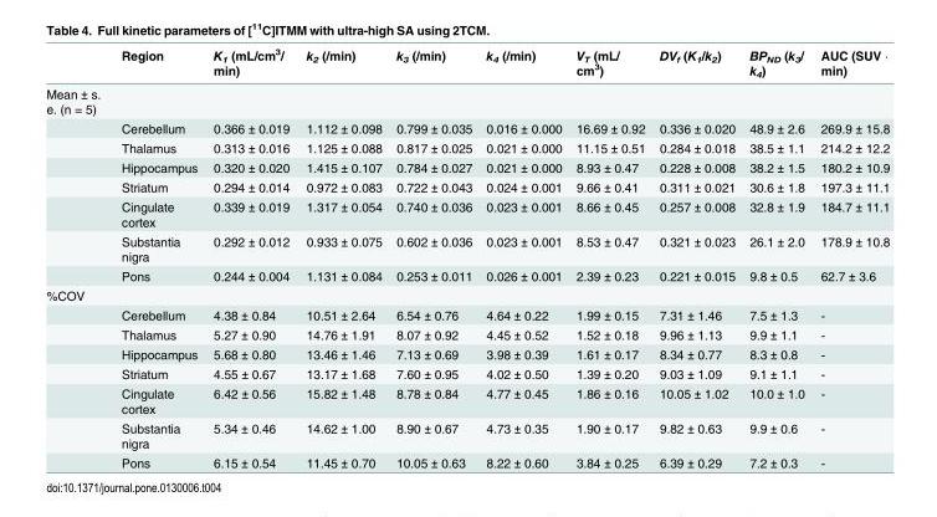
<table><thead><tr><td></td><td>Region</td><td>K<sub>1</sub> (mL/cm<sup>3</sup>/ min)</td><td>k<sub>2</sub> (/min)</td><td>k<sub>3</sub> (/min)</td><td>k<sub>4</sub> (/min)</td><td>V<sub>T</sub> (mL/ cm<sup>3</sup>)</td><td>DV<sub>f</sub> (K<sub>1</sub>/k<sub>2</sub>)</td><td>BP<sub>ND</sub> (k<sub>3</sub>/ k<sub>4</sub>)</td><td>AUC (SUV · min)</td></tr></thead><tbody><tr><td colspan="10">Mean ± s. e. (n = 5)</td></tr><tr><td></td><td>Cerebellum</td><td>0.366 ± 0.019</td><td>1.112 ± 0.098</td><td>0.799 ± 0.035</td><td>0.016 ± 0.000</td><td>16.69 ± 0.92</td><td>0.336 ± 0.020</td><td>48.9 ± 2.6</td><td>269.9 ± 15.8</td></tr><tr><td></td><td>Thalamus</td><td>0.313 ± 0.016</td><td>1.125 ± 0.088</td><td>0.817 ± 0.025</td><td>0.021 ± 0.000</td><td>11.15 ± 0.51</td><td>0.284 ± 0.018</td><td>38.5 ± 1.1</td><td>214.2 ± 12.2</td></tr><tr><td></td><td>Hippocampus</td><td>0.320 ± 0.020</td><td>1.415 ± 0.107</td><td>0.784 ± 0.027</td><td>0.021 ± 0.000</td><td>8.93 ± 0.47</td><td>0.228 ± 0.008</td><td>38.2 ± 1.5</td><td>180.2 ± 10.9</td></tr><tr><td></td><td>Striatum</td><td>0.294 ± 0.014</td><td>0.972 ± 0.083</td><td>0.722 ± 0.043</td><td>0.024 ± 0.001</td><td>9.66 ± 0.41</td><td>0.311 ± 0.021</td><td>30.6 ± 1.8</td><td>197.3 ± 11.1</td></tr><tr><td></td><td>Cingulate cortex</td><td>0.339 ± 0.019</td><td>1.317 ± 0.054</td><td>0.740 ± 0.036</td><td>0.023 ± 0.001</td><td>8.66 ± 0.45</td><td>0.257 ± 0.008</td><td>32.8 ± 1.9</td><td>184.7 ± 11.1</td></tr><tr><td></td><td>Substantia nigra</td><td>0.292 ± 0.012</td><td>0.933 ± 0.075</td><td>0.602 ± 0.036</td><td>0.023 ± 0.001</td><td>8.53 ± 0.47</td><td>0.321 ± 0.023</td><td>26.1 ± 2.0</td><td>178.9 ± 10.8</td></tr><tr><td></td><td>Pons</td><td>0.244 ± 0.004</td><td>1.131 ± 0.084</td><td>0.253 ± 0.011</td><td>0.026 ± 0.001</td><td>2.39 ± 0.23</td><td>0.221 ± 0.015</td><td>9.8 ± 0.5</td><td>62.7 ± 3.6</td></tr><tr><td colspan="10">%COV</td></tr><tr><td></td><td>Cerebellum</td><td>4.38 ± 0.84</td><td>10.51 ± 2.64</td><td>6.54 ± 0.76</td><td>4.64 ± 0.22</td><td>1.99 ± 0.15</td><td>7.31 ± 1.46</td><td>7.5 ± 1.3</td><td>-</td></tr><tr><td></td><td>Thalamus</td><td>5.27 ± 0.90</td><td>14.76 ± 1.91</td><td>8.07 ± 0.92</td><td>4.45 ± 0.52</td><td>1.52 ± 0.18</td><td>9.96 ± 1.13</td><td>9.9 ± 1.1</td><td>-</td></tr><tr><td></td><td>Hippocampus</td><td>5.68 ± 0.80</td><td>13.46 ± 1.46</td><td>7.13 ± 0.69</td><td>3.98 ± 0.39</td><td>1.61 ± 0.17</td><td>8.34 ± 0.77</td><td>8.3 ± 0.8</td><td>-</td></tr><tr><td></td><td>Striatum</td><td>4.55 ± 0.67</td><td>13.17 ± 1.68</td><td>7.60 ± 0.95</td><td>4.02 ± 0.50</td><td>1.39 ± 0.20</td><td>9.03 ± 1.09</td><td>9.1 ± 1.1</td><td>-</td></tr><tr><td></td><td>Cingulate cortex</td><td>6.42 ± 0.56</td><td>15.82 ± 1.48</td><td>8.78 ± 0.84</td><td>4.77 ± 0.45</td><td>1.86 ± 0.16</td><td>10.05 ± 1.02</td><td>10.0 ± 1.0</td><td>-</td></tr><tr><td></td><td>Substantia nigra</td><td>5.34 ± 0.46</td><td>14.62 ± 1.00</td><td>8.90 ± 0.67</td><td>4.73 ± 0.35</td><td>1.90 ± 0.17</td><td>9.82 ± 0.63</td><td>9.9 ± 0.6</td><td>-</td></tr><tr><td></td><td>Pons</td><td>6.15 ± 0.54</td><td>11.45 ± 0.70</td><td>10.05 ± 0.63</td><td>8.22 ± 0.60</td><td>3.84 ± 0.25</td><td>6.39 ± 0.29</td><td>7.2 ± 0.3</td><td>-</td></tr></tbody></table>